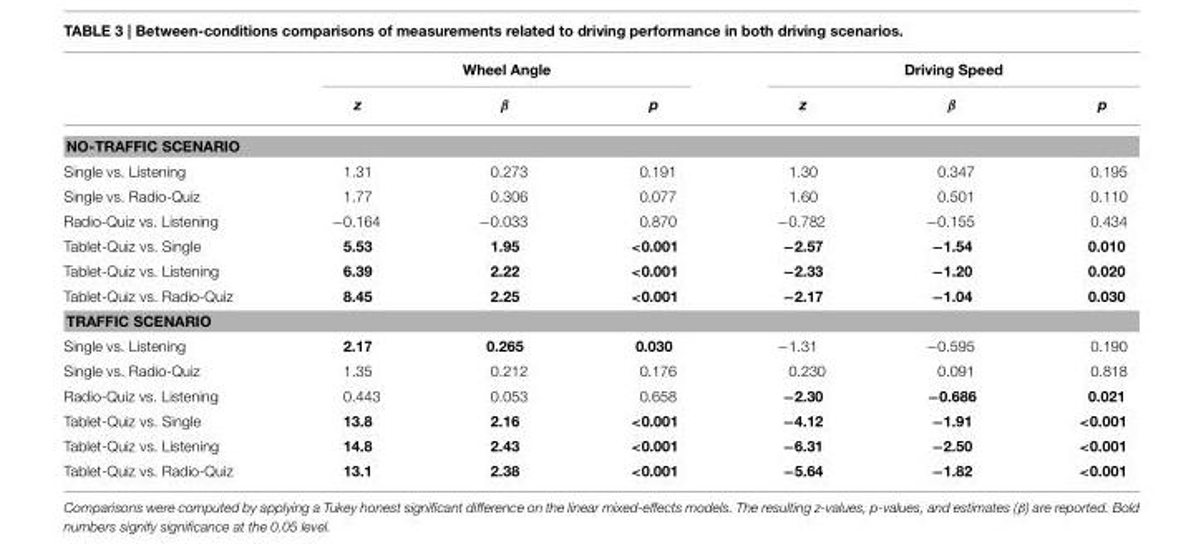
<table><thead><tr><td rowspan="2"></td><td colspan="3">Wheel Angle</td><td colspan="3">Driving Speed</td></tr><tr><td>z</td><td>β</td><td>p</td><td>z</td><td>β</td><td>p</td></tr></thead><tbody><tr><td colspan="7">NO-TRAFFIC SCENARIO</td></tr><tr><td>Single vs. Listening</td><td>1.31</td><td>0.273</td><td>0.191</td><td>1.30</td><td>0.347</td><td>0.195</td></tr><tr><td>Single vs. Radio-Quiz</td><td>1.77</td><td>0.306</td><td>0.077</td><td>1.60</td><td>0.501</td><td>0.110</td></tr><tr><td>Radio-Quiz vs. Listening</td><td>−0.164</td><td>−0.033</td><td>0.870</td><td>−0.782</td><td>−0.155</td><td>0.434</td></tr><tr><td>Tablet-Quiz vs. Single</td><td>5.53</td><td>1.95</td><td>&lt;0.001</td><td>−2.57</td><td>−1.54</td><td>0.010</td></tr><tr><td>Tablet-Quiz vs. Listening</td><td>6.39</td><td>2.22</td><td>&lt;0.001</td><td>−2.33</td><td>−1.20</td><td>0.020</td></tr><tr><td>Tablet-Quiz vs. Radio-Quiz</td><td>8.45</td><td>2.25</td><td>&lt;0.001</td><td>−2.17</td><td>−1.04</td><td>0.030</td></tr><tr><td colspan="7">TRAFFIC SCENARIO</td></tr><tr><td>Single vs. Listening</td><td>2.17</td><td>0.265</td><td>0.030</td><td>−1.31</td><td>−0.595</td><td>0.190</td></tr><tr><td>Single vs. Radio-Quiz</td><td>1.35</td><td>0.212</td><td>0.176</td><td>0.230</td><td>0.091</td><td>0.818</td></tr><tr><td>Radio-Quiz vs. Listening</td><td>0.443</td><td>0.053</td><td>0.658</td><td>−2.30</td><td>−0.686</td><td>0.021</td></tr><tr><td>Tablet-Quiz vs. Single</td><td>13.8</td><td>2.16</td><td>&lt;0.001</td><td>−4.12</td><td>−1.91</td><td>&lt;0.001</td></tr><tr><td>Tablet-Quiz vs. Listening</td><td>14.8</td><td>2.43</td><td>&lt;0.001</td><td>−6.31</td><td>−2.50</td><td>&lt;0.001</td></tr><tr><td>Tablet-Quiz vs. Radio-Quiz</td><td>13.1</td><td>2.38</td><td>&lt;0.001</td><td>−5.64</td><td>−1.82</td><td>&lt;0.001</td></tr></tbody></table>